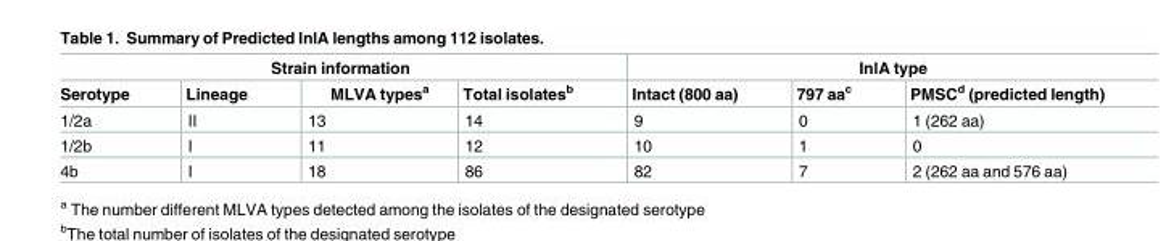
<table><thead><tr><td colspan="4">Strain information</td><td colspan="3">InlA type</td></tr><tr><td>Serotype</td><td>Lineage</td><td>MLVA types<sup>a</sup></td><td>Total isolates<sup>b</sup></td><td>Intact (800 aa)</td><td>797 aa<sup>c</sup></td><td>PMSC<sup>d</sup> (predicted length)</td></tr></thead><tbody><tr><td>1/2a</td><td>II</td><td>13</td><td>14</td><td>9</td><td>0</td><td>1 (262 aa)</td></tr><tr><td>1/2b</td><td>I</td><td>11</td><td>12</td><td>10</td><td>1</td><td>0</td></tr><tr><td>4b</td><td>I</td><td>18</td><td>86</td><td>82</td><td>7</td><td>2 (262 aa and 576 aa)</td></tr></tbody></table>